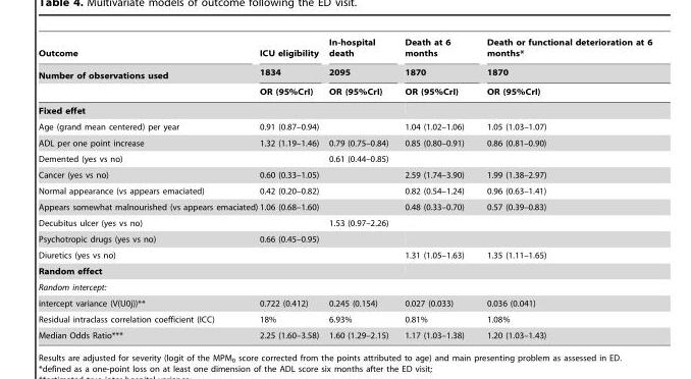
<table><thead><tr><td rowspan="3">Outcome Number of observations used</td><td rowspan="3">ICU eligibility 1834 OR (95%CrI)</td><td rowspan="3">In-hospital death 2095 OR (95%CrI)</td><td rowspan="3">Death at 6 months 1870 OR (95%CrI)</td><td rowspan="3">Death or functional deterioration at 6 months* 1870 OR (95%CrI)</td></tr><tr></tr><tr></tr></thead><tbody><tr><td colspan="5">Fixed effet</td></tr><tr><td>Age (grand mean centered) per year</td><td>0.91 (0.87–0.94)</td><td></td><td>1.04 (1.02–1.06)</td><td>1.05 (1.03–1.07)</td></tr><tr><td>ADL per one point increase</td><td>1.32 (1.19–1.46)</td><td>0.79 (0.75–0.84)</td><td>0.85 (0.80–0.91)</td><td>0.86 (0.81–0.90)</td></tr><tr><td>Demented (yes vs no)</td><td></td><td>0.61 (0.44–0.85)</td><td></td><td></td></tr><tr><td>Cancer (yes vs no)</td><td>0.60 (0.33–1.05)</td><td></td><td>2.59 (1.74–3.90)</td><td>1.99 (1.38–2.97)</td></tr><tr><td>Normal appearance (vs appears emaciated)</td><td>0.42 (0.20–0.82)</td><td></td><td>0.82 (0.54–1.24)</td><td>0.96 (0.63–1.41)</td></tr><tr><td>Appears somewhat malnourished (vs appears emaciated)</td><td>1.06 (0.68–1.60)</td><td></td><td>0.48 (0.33–0.70)</td><td>0.57 (0.39–0.83)</td></tr><tr><td>Decubitus ulcer (yes vs no)</td><td></td><td>1.53 (0.97–2.26)</td><td></td><td></td></tr><tr><td>Psychotropic drugs (yes vs no)</td><td>0.66 (0.45–0.95)</td><td></td><td></td><td></td></tr><tr><td>Diuretics (yes vs no)</td><td></td><td></td><td>1.31 (1.05–1.63)</td><td>1.35 (1.11–1.65)</td></tr><tr><td colspan="5">Random effect</td></tr><tr><td colspan="5">Random intercept:</td></tr><tr><td>intercept variance (V(U0j))**</td><td>0.722 (0.412)</td><td>0.245 (0.154)</td><td>0.027 (0.033)</td><td>0.036 (0.041)</td></tr><tr><td>Residual intraclass correlation coefficient (ICC)</td><td>18%</td><td>6.93%</td><td>0.81%</td><td>1.08%</td></tr><tr><td>Median Odds Ratio***</td><td>2.25 (1.60–3.58)</td><td>1.60 (1.29–2.15)</td><td>1.17 (1.03–1.38)</td><td>1.20 (1.03–1.43)</td></tr></tbody></table>